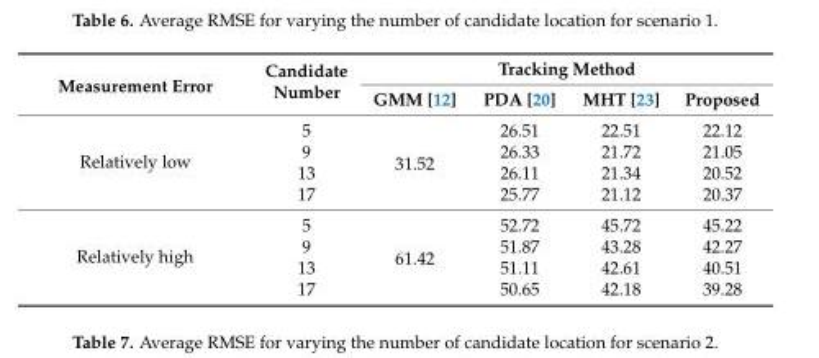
<table><thead><tr><td rowspan="2">Measurement Error</td><td rowspan="2">Candidate Number</td><td colspan="4">Tracking Method</td></tr><tr><td>GMM [12]</td><td>PDA [20]</td><td>MHT [23]</td><td>Proposed</td></tr></thead><tbody><tr><td rowspan="4">Relatively low</td><td>5</td><td rowspan="4">31.52</td><td>26.51</td><td>22.51</td><td>22.12</td></tr><tr><td>9</td><td>26.33</td><td>21.72</td><td>21.05</td></tr><tr><td>13</td><td>26.11</td><td>21.34</td><td>20.52</td></tr><tr><td>17</td><td>25.77</td><td>21.12</td><td>20.37</td></tr><tr><td rowspan="4">Relatively high</td><td>5</td><td rowspan="4">61.42</td><td>52.72</td><td>45.72</td><td>45.22</td></tr><tr><td>9</td><td>51.87</td><td>43.28</td><td>42.27</td></tr><tr><td>13</td><td>51.11</td><td>42.61</td><td>40.51</td></tr><tr><td>17</td><td>50.65</td><td>42.18</td><td>39.28</td></tr></tbody></table>